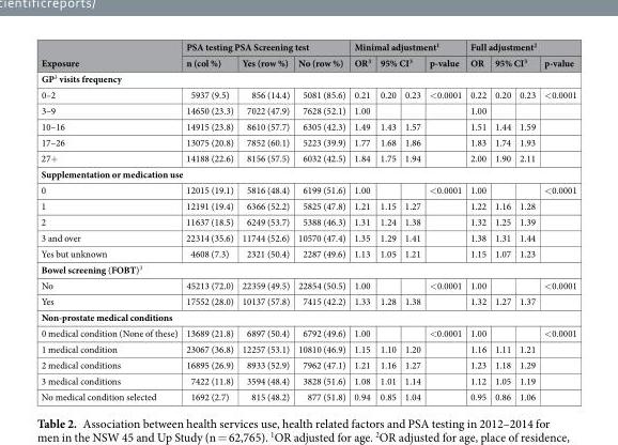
<table><thead><tr><td rowspan="2">Exposure</td><td colspan="3">PSA testing PSA Screening test</td><td colspan="4">Minimal adjustment<sup>1</sup></td><td colspan="4">Full adjustment<sup>2</sup></td></tr><tr><td>n (col %)</td><td>Yes (row %)</td><td>No (row %)</td><td>OR<sup>3</sup></td><td colspan="2">95% CI<sup>3</sup></td><td>p-value</td><td>OR</td><td colspan="2">95% CI<sup>3</sup></td><td>p-value</td></tr><tr><td colspan="12">GP<sup>3</sup> visits frequency</td></tr><tr><td>0–2</td><td>5937 (9.5)</td><td>856 (14.4)</td><td>5081 (85.6)</td><td>0.21</td><td>0.20</td><td>0.23</td><td>&lt;0.0001</td><td>0.22</td><td>0.20</td><td>0.23</td><td>&lt;0.0001</td></tr></thead><tbody><tr><td>3–9</td><td>14650 (23.3)</td><td>7022 (47.9)</td><td>7628 (52.1)</td><td>1.00</td><td></td><td></td><td></td><td>1.00</td><td></td><td></td><td></td></tr><tr><td>10–16</td><td>14915 (23.8)</td><td>8610 (57.7)</td><td>6305 (42.3)</td><td>1.49</td><td>1.43</td><td>1.57</td><td></td><td>1.51</td><td>1.44</td><td>1.59</td><td></td></tr><tr><td>17–26</td><td>13075 (20.8)</td><td>7852 (60.1)</td><td>5223 (39.9)</td><td>1.77</td><td>1.68</td><td>1.86</td><td></td><td>1.83</td><td>1.74</td><td>1.93</td><td></td></tr><tr><td>27+</td><td>14188 (22.6)</td><td>8156 (57.5)</td><td>6032 (42.5)</td><td>1.84</td><td>1.75</td><td>1.94</td><td></td><td>2.00</td><td>1.90</td><td>2.11</td><td></td></tr><tr><td colspan="12">Supplementation or medication use</td></tr><tr><td>0</td><td>12015 (19.1)</td><td>5816 (48.4)</td><td>6199 (51.6)</td><td>1.00</td><td></td><td></td><td>&lt;0.0001</td><td>1.00</td><td></td><td></td><td>&lt;0.0001</td></tr><tr><td>1</td><td>12191 (19.4)</td><td>6366 (52.2)</td><td>5825 (47.8)</td><td>1.21</td><td>1.15</td><td>1.27</td><td></td><td>1.22</td><td>1.16</td><td>1.28</td><td></td></tr><tr><td>2</td><td>11637 (18.5)</td><td>6249 (53.7)</td><td>5388 (46.3)</td><td>1.31</td><td>1.24</td><td>1.38</td><td></td><td>1.32</td><td>1.25</td><td>1.39</td><td></td></tr><tr><td>3 and over</td><td>22314 (35.6)</td><td>11744 (52.6)</td><td>10570 (47.4)</td><td>1.35</td><td>1.29</td><td>1.41</td><td></td><td>1.38</td><td>1.31</td><td>1.44</td><td></td></tr><tr><td>Yes but unknown</td><td>4608 (7.3)</td><td>2321 (50.4)</td><td>2287 (49.6)</td><td>1.13</td><td>1.05</td><td>1.21</td><td></td><td>1.15</td><td>1.07</td><td>1.23</td><td></td></tr><tr><td colspan="12">Bowel screening (FOBT)<sup>3</sup></td></tr><tr><td>No</td><td>45213 (72.0)</td><td>22359 (49.5)</td><td>22854 (50.5)</td><td>1.00</td><td></td><td></td><td>&lt;0.0001</td><td>1.00</td><td></td><td></td><td>&lt;0.0001</td></tr><tr><td>Yes</td><td>17552 (28.0)</td><td>10137 (57.8)</td><td>7415 (42.2)</td><td>1.33</td><td>1.28</td><td>1.38</td><td></td><td>1.32</td><td>1.27</td><td>1.37</td><td></td></tr><tr><td colspan="12">Non-prostate medical conditions</td></tr><tr><td>0 medical condition (None of these)</td><td>13689 (21.8)</td><td>6897 (50.4)</td><td>6792 (49.6)</td><td>1.00</td><td></td><td></td><td>&lt;0.0001</td><td>1.00</td><td></td><td></td><td>&lt;0.0001</td></tr><tr><td>1 medical condition</td><td>23067 (36.8)</td><td>12257 (53.1)</td><td>10810 (46.9)</td><td>1.15</td><td>1.10</td><td>1.20</td><td></td><td>1.16</td><td>1.11</td><td>1.21</td><td></td></tr><tr><td>2 medical conditions</td><td>16895 (26.9)</td><td>8933 (52.9)</td><td>7962 (47.1)</td><td>1.21</td><td>1.16</td><td>1.27</td><td></td><td>1.23</td><td>1.18</td><td>1.29</td><td></td></tr><tr><td>3 medical conditions</td><td>7422 (11.8)</td><td>3594 (48.4)</td><td>3828 (51.6)</td><td>1.08</td><td>1.01</td><td>1.14</td><td></td><td>1.12</td><td>1.05</td><td>1.19</td><td></td></tr><tr><td>No medical condition selected</td><td>1692 (2.7)</td><td>815 (48.2)</td><td>877 (51.8)</td><td>0.94</td><td>0.85</td><td>1.04</td><td></td><td>0.95</td><td>0.86</td><td>1.06</td><td></td></tr></tbody></table>